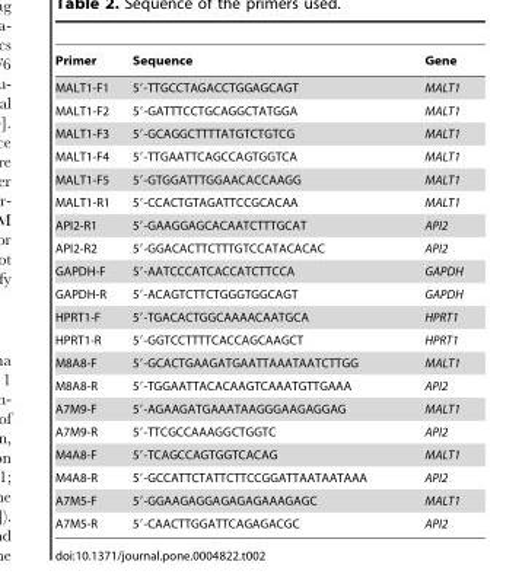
<table><thead><tr><td>Primer</td><td>Sequence</td><td>Gene</td></tr></thead><tbody><tr><td>MALT1-F1</td><td>5′-TTGCCTAGACCTGGAGCAGT</td><td>MALT1</td></tr><tr><td>MALT1-F2</td><td>5′-GATTTCCTGCAGGCTATGGA</td><td>MALT1</td></tr><tr><td>MALT1-F3</td><td>5′-GCAGGCTTTTATGTCTGTCG</td><td>MALT1</td></tr><tr><td>MALT1-F4</td><td>5′-TTGAATTCAGCCAGTGGTCA</td><td>MALT1</td></tr><tr><td>MALT1-F5</td><td>5′-GTGGATTTGGAACACCAAGG</td><td>MALT1</td></tr><tr><td>MALT1-R1</td><td>5′-CCACTGTAGATTCCGCACAA</td><td>MALT1</td></tr><tr><td>API2-R1</td><td>5′-GAAGGAGCACAATCTTTGCAT</td><td>API2</td></tr><tr><td>API2-R2</td><td>5′-GGACACTTCTTTGTCCATACACAC</td><td>API2</td></tr><tr><td>GAPDH-F</td><td>5′-AATCCCATCACCATCTTCCA</td><td>GAPDH</td></tr><tr><td>GAPDH-R</td><td>5′-ACAGTCTTCTGGGTGGCAGT</td><td>GAPDH</td></tr><tr><td>HPRT1-F</td><td>5′-TGACACTGGCAAAACAATGCA</td><td>HPRT1</td></tr><tr><td>HPRT1-R</td><td>5′-GGTCCTTTTCACCAGCAAGCT</td><td>HPRT1</td></tr><tr><td>M8A8-F</td><td>5′-GCACTGAAGATGAATTAAATAATCTTGG</td><td>MALT1</td></tr><tr><td>M8A8-R</td><td>5′-TGGAATTACACAAGTCAAATGTTGAAA</td><td>API2</td></tr><tr><td>A7M9-F</td><td>5′-AGAAGATGAAATAAGGGAAGAGGAG</td><td>MALT1</td></tr><tr><td>A7M9-R</td><td>5′-TTCGCCAAAGGCTGGTC</td><td>API2</td></tr><tr><td>M4A8-F</td><td>5′-TCAGCCAGTGGTCACAG</td><td>MALT1</td></tr><tr><td>M4A8-R</td><td>5′-GCCATTCTATTCTTCCGGATTAATAATAAA</td><td>API2</td></tr><tr><td>A7M5-F</td><td>5′-GGAAGAGGAGAGAGAAAGAGC</td><td>MALT1</td></tr><tr><td>A7M5-R</td><td>5′-CAACTTGGATTCAGAGACGC</td><td>API2</td></tr></tbody></table>